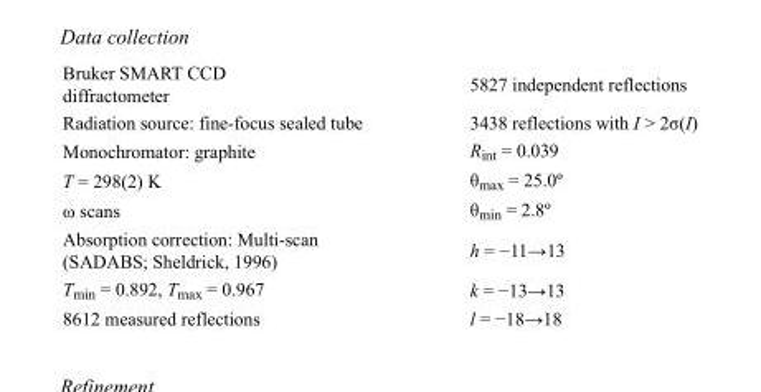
<table><tbody><tr><td>Bruker SMART CCD diffractometer</td><td>5827 independent reflections</td></tr><tr><td>Radiation source: fine-focus sealed tube</td><td>3438 reflections with I &gt; 2σ(I)</td></tr><tr><td>Monochromator: graphite</td><td>R<sub>int</sub> = 0.039</td></tr><tr><td>T = 298(2) K</td><td>θ<sub>max</sub> = 25.0º</td></tr><tr><td>ω scans</td><td>θ<sub>min</sub> = 2.8º</td></tr><tr><td>Absorption correction: Multi-scan (SADABS; Sheldrick, 1996)</td><td>h = −11→13</td></tr><tr><td>T<sub>min</sub> = 0.892, T<sub>max</sub> = 0.967</td><td>k = −13→13</td></tr><tr><td>8612 measured reflections</td><td>l = −18→18</td></tr></tbody></table>